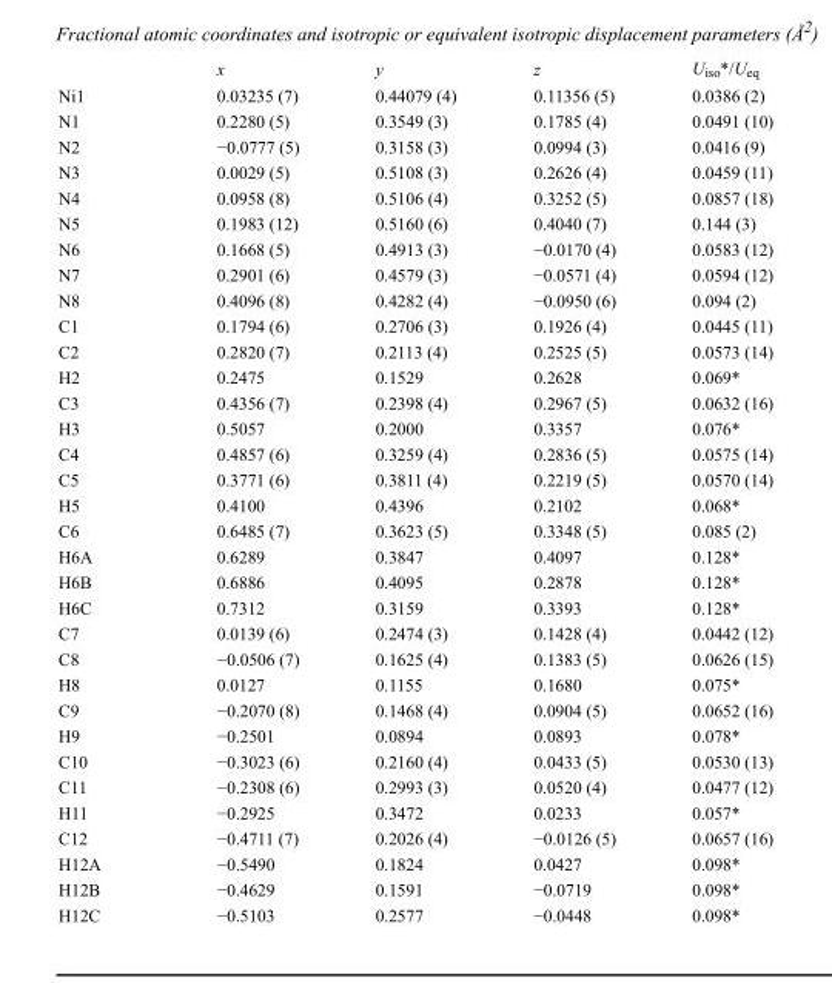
<table><thead><tr><td></td><td>x</td><td>y</td><td>z</td><td>U<sub>iso</sub>*/U<sub>eq</sub></td></tr></thead><tbody><tr><td>Ni1</td><td>0.03235 (7)</td><td>0.44079 (4)</td><td>0.11356 (5)</td><td>0.0386 (2)</td></tr><tr><td>N1</td><td>0.2280 (5)</td><td>0.3549 (3)</td><td>0.1785 (4)</td><td>0.0491 (10)</td></tr><tr><td>N2</td><td>−0.0777 (5)</td><td>0.3158 (3)</td><td>0.0994 (3)</td><td>0.0416 (9)</td></tr><tr><td>N3</td><td>0.0029 (5)</td><td>0.5108 (3)</td><td>0.2626 (4)</td><td>0.0459 (11)</td></tr><tr><td>N4</td><td>0.0958 (8)</td><td>0.5106 (4)</td><td>0.3252 (5)</td><td>0.0857 (18)</td></tr><tr><td>N5</td><td>0.1983 (12)</td><td>0.5160 (6)</td><td>0.4040 (7)</td><td>0.144 (3)</td></tr><tr><td>N6</td><td>0.1668 (5)</td><td>0.4913 (3)</td><td>−0.0170 (4)</td><td>0.0583 (12)</td></tr><tr><td>N7</td><td>0.2901 (6)</td><td>0.4579 (3)</td><td>−0.0571 (4)</td><td>0.0594 (12)</td></tr><tr><td>N8</td><td>0.4096 (8)</td><td>0.4282 (4)</td><td>−0.0950 (6)</td><td>0.094 (2)</td></tr><tr><td>C1</td><td>0.1794 (6)</td><td>0.2706 (3)</td><td>0.1926 (4)</td><td>0.0445 (11)</td></tr><tr><td>C2</td><td>0.2820 (7)</td><td>0.2113 (4)</td><td>0.2525 (5)</td><td>0.0573 (14)</td></tr><tr><td>H2</td><td>0.2475</td><td>0.1529</td><td>0.2628</td><td>0.069*</td></tr><tr><td>C3</td><td>0.4356 (7)</td><td>0.2398 (4)</td><td>0.2967 (5)</td><td>0.0632 (16)</td></tr><tr><td>H3</td><td>0.5057</td><td>0.2000</td><td>0.3357</td><td>0.076*</td></tr><tr><td>C4</td><td>0.4857 (6)</td><td>0.3259 (4)</td><td>0.2836 (5)</td><td>0.0575 (14)</td></tr><tr><td>C5</td><td>0.3771 (6)</td><td>0.3811 (4)</td><td>0.2219 (5)</td><td>0.0570 (14)</td></tr><tr><td>H5</td><td>0.4100</td><td>0.4396</td><td>0.2102</td><td>0.068*</td></tr><tr><td>C6</td><td>0.6485 (7)</td><td>0.3623 (5)</td><td>0.3348 (5)</td><td>0.085 (2)</td></tr><tr><td>H6A</td><td>0.6289</td><td>0.3847</td><td>0.4097</td><td>0.128*</td></tr><tr><td>H6B</td><td>0.6886</td><td>0.4095</td><td>0.2878</td><td>0.128*</td></tr><tr><td>H6C</td><td>0.7312</td><td>0.3159</td><td>0.3393</td><td>0.128*</td></tr><tr><td>C7</td><td>0.0139 (6)</td><td>0.2474 (3)</td><td>0.1428 (4)</td><td>0.0442 (12)</td></tr><tr><td>C8</td><td>−0.0506 (7)</td><td>0.1625 (4)</td><td>0.1383 (5)</td><td>0.0626 (15)</td></tr><tr><td>H8</td><td>0.0127</td><td>0.1155</td><td>0.1680</td><td>0.075*</td></tr><tr><td>C9</td><td>−0.2070 (8)</td><td>0.1468 (4)</td><td>0.0904 (5)</td><td>0.0652 (16)</td></tr><tr><td>H9</td><td>−0.2501</td><td>0.0894</td><td>0.0893</td><td>0.078*</td></tr><tr><td>C10</td><td>−0.3023 (6)</td><td>0.2160 (4)</td><td>0.0433 (5)</td><td>0.0530 (13)</td></tr><tr><td>C11</td><td>−0.2308 (6)</td><td>0.2993 (3)</td><td>0.0520 (4)</td><td>0.0477 (12)</td></tr><tr><td>H11</td><td>−0.2925</td><td>0.3472</td><td>0.0233</td><td>0.057*</td></tr><tr><td>C12</td><td>−0.4711 (7)</td><td>0.2026 (4)</td><td>−0.0126 (5)</td><td>0.0657 (16)</td></tr><tr><td>H12A</td><td>−0.5490</td><td>0.1824</td><td>0.0427</td><td>0.098*</td></tr><tr><td>H12B</td><td>−0.4629</td><td>0.1591</td><td>−0.0719</td><td>0.098*</td></tr><tr><td>H12C</td><td>−0.5103</td><td>0.2577</td><td>−0.0448</td><td>0.098*</td></tr></tbody></table>